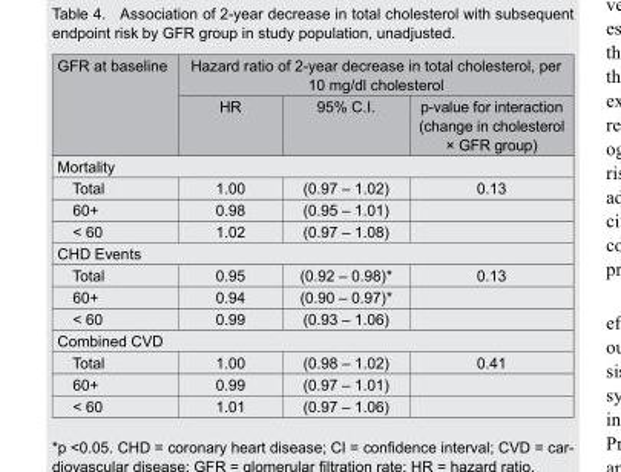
<table><thead><tr><td rowspan="2">GFR at baseline</td><td colspan="3">Hazard ratio of 2-year decrease in total cholesterol, per 10 mg/dl cholesterol</td></tr><tr><td>HR</td><td>95% C.I.</td><td>p-value for interaction (change in cholesterol × GFR group)</td></tr></thead><tbody><tr><td colspan="4">Mortality</td></tr><tr><td>Total</td><td>1.00</td><td>(0.97 – 1.02)</td><td>0.13</td></tr><tr><td>60+</td><td>0.98</td><td>(0.95 – 1.01)</td><td></td></tr><tr><td>&lt; 60</td><td>1.02</td><td>(0.97 – 1.08)</td><td></td></tr><tr><td colspan="4">CHD Events</td></tr><tr><td>Total</td><td>0.95</td><td>(0.92 – 0.98)*</td><td>0.13</td></tr><tr><td>60+</td><td>0.94</td><td>(0.90 – 0.97)*</td><td></td></tr><tr><td>&lt; 60</td><td>0.99</td><td>(0.93 – 1.06)</td><td></td></tr><tr><td colspan="4">Combined CVD</td></tr><tr><td>Total</td><td>1.00</td><td>(0.98 – 1.02)</td><td>0.41</td></tr><tr><td>60+</td><td>0.99</td><td>(0.97 – 1.01)</td><td></td></tr><tr><td>&lt; 60</td><td>1.01</td><td>(0.97 – 1.06)</td><td></td></tr></tbody></table>